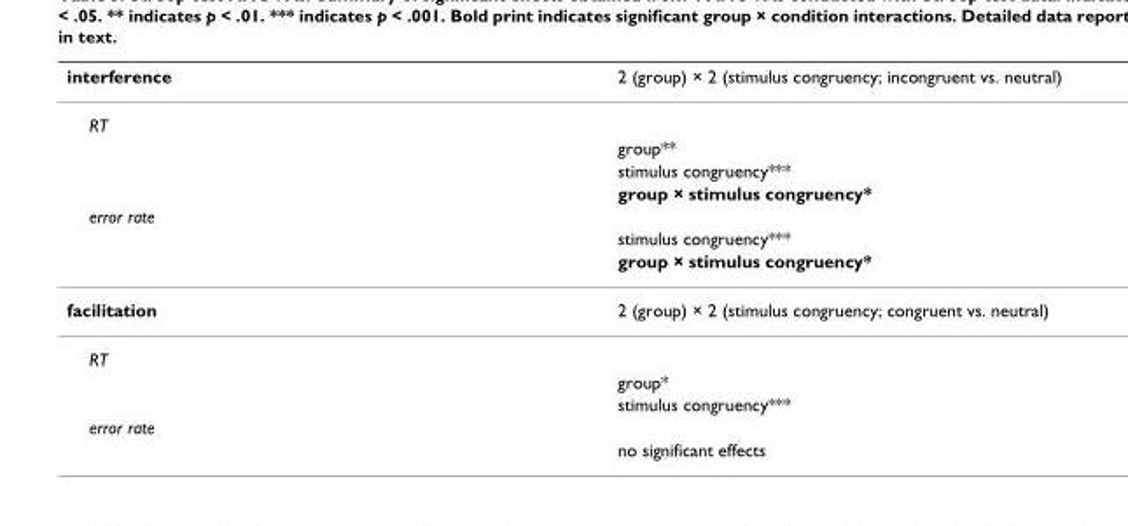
<table><thead><tr><td>interference</td><td>2 (group) × 2 (stimulus congruency; incongruent vs. neutral)</td></tr></thead><tbody><tr><td colspan="2">RT</td></tr><tr><td></td><td>group**</td></tr><tr><td></td><td>stimulus congruency***</td></tr><tr><td></td><td>group × stimulus congruency*</td></tr><tr><td colspan="2">error rate</td></tr><tr><td></td><td>stimulus congruency***</td></tr><tr><td></td><td>group × stimulus congruency*</td></tr><tr><td>facilitation</td><td>2 (group) × 2 (stimulus congruency; congruent vs. neutral)</td></tr><tr><td colspan="2">RT</td></tr><tr><td></td><td>group*</td></tr><tr><td></td><td>stimulus congruency***</td></tr><tr><td colspan="2">error rate</td></tr><tr><td></td><td>no significant effects</td></tr></tbody></table>